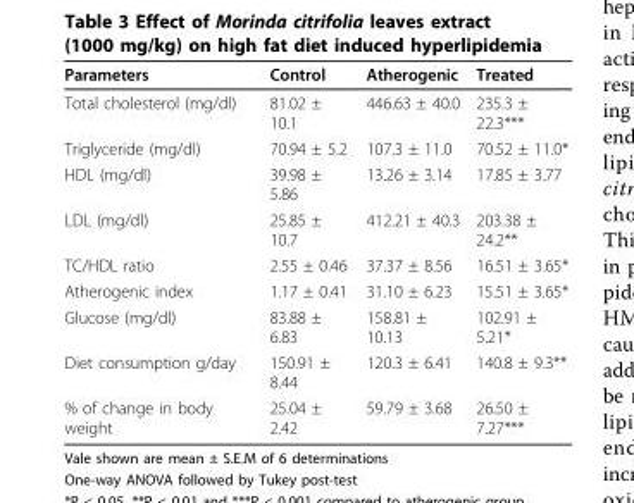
<table><thead><tr><td>Parameters</td><td>Control</td><td>Atherogenic</td><td>Treated</td></tr></thead><tbody><tr><td>Total cholesterol (mg/dl)</td><td>81.02 ± 10.1</td><td>446.63 ± 40.0</td><td>235.3 ± 22.3***</td></tr><tr><td>Triglyceride (mg/dl)</td><td>70.94 ± 5.2</td><td>107.3 ± 11.0</td><td>70.52 ± 11.0*</td></tr><tr><td>HDL (mg/dl)</td><td>39.98 ± 5.86</td><td>13.26 ± 3.14</td><td>17.85 ± 3.77</td></tr><tr><td>LDL (mg/dl)</td><td>25.85 ± 10.7</td><td>412.21 ± 40.3</td><td>203.38 ± 24.2**</td></tr><tr><td>TC/HDL ratio</td><td>2.55 ± 0.46</td><td>37.37 ± 8.56</td><td>16.51 ± 3.65*</td></tr><tr><td>Atherogenic index</td><td>1.17 ± 0.41</td><td>31.10 ± 6.23</td><td>15.51 ± 3.65*</td></tr><tr><td>Glucose (mg/dl)</td><td>83.88 ± 6.83</td><td>158.81 ± 10.13</td><td>102.91 ± 5.21*</td></tr><tr><td>Diet consumption g/day</td><td>150.91 ± 8.44</td><td>120.3 ± 6.41</td><td>140.8 ± 9.3**</td></tr><tr><td>% of change in body weight</td><td>25.04 ± 2.42</td><td>59.79 ± 3.68</td><td>26.50 ± 7.27***</td></tr></tbody></table>